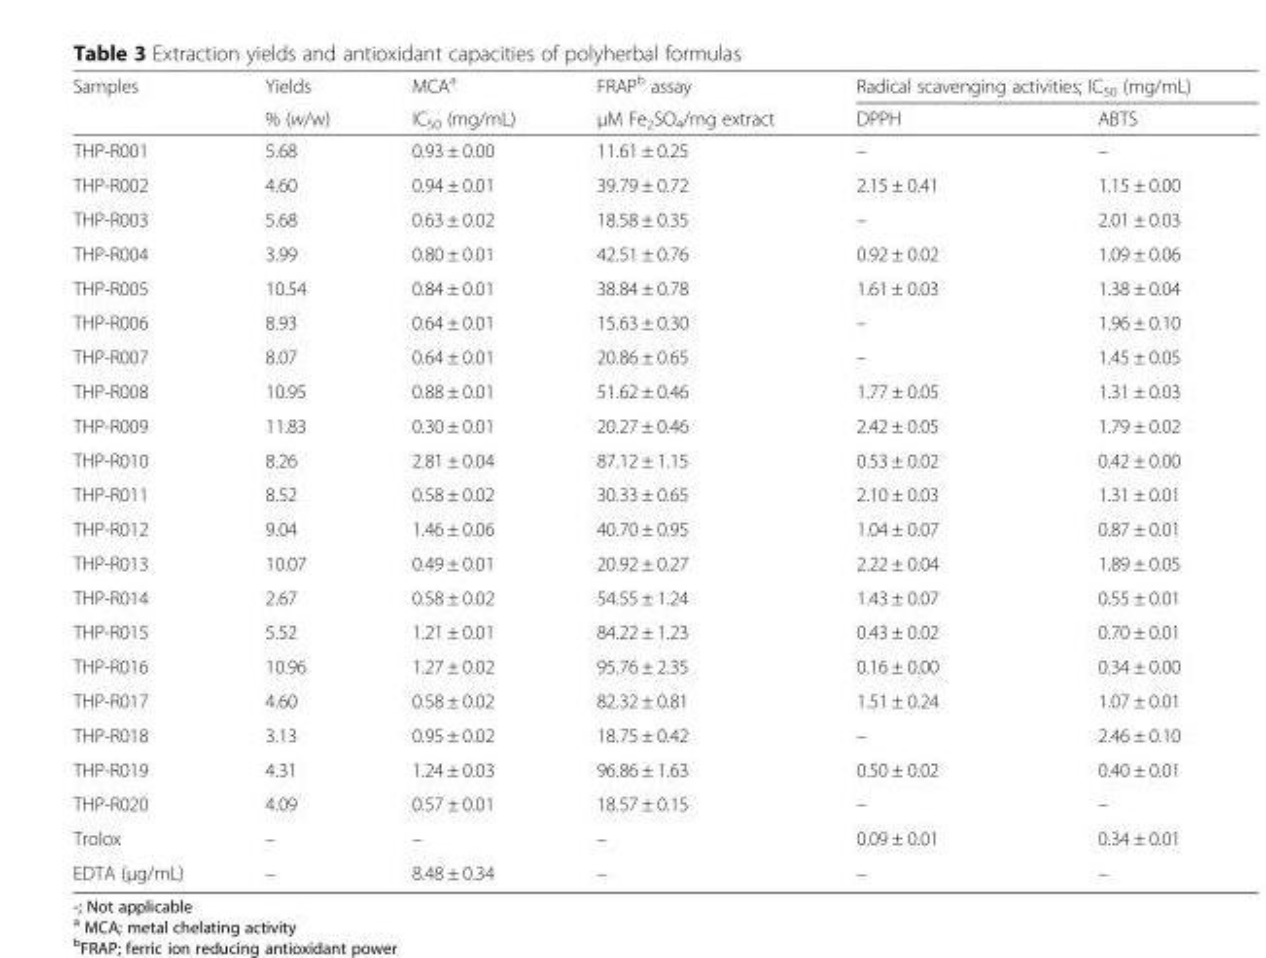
<table><thead><tr><td rowspan="2">Samples</td><td rowspan="2">Yields % (w/w)</td><td rowspan="2">MCA<sup>a</sup> IC<sub>50</sub> (mg/mL)</td><td rowspan="2">FRAP<sup>b</sup> assay μM Fe<sub>2</sub>SO<sub>4</sub>/mg extract</td><td colspan="2">Radical scavenging activities; IC<sub>50</sub> (mg/mL)</td></tr><tr><td>DPPH</td><td>ABTS</td></tr></thead><tbody><tr><td>THP-R001</td><td>5.68</td><td>0.93 ± 0.00</td><td>11.61 ± 0.25</td><td>–</td><td>–</td></tr><tr><td>THP-R002</td><td>4.60</td><td>0.94 ± 0.01</td><td>39.79 ± 0.72</td><td>2.15 ± 0.41</td><td>1.15 ± 0.00</td></tr><tr><td>THP-R003</td><td>5.68</td><td>0.63 ± 0.02</td><td>18.58 ± 0.35</td><td>–</td><td>2.01 ± 0.03</td></tr><tr><td>THP-R004</td><td>3.99</td><td>0.80 ± 0.01</td><td>42.51 ± 0.76</td><td>0.92 ± 0.02</td><td>1.09 ± 0.06</td></tr><tr><td>THP-R005</td><td>10.54</td><td>0.84 ± 0.01</td><td>38.84 ± 0.78</td><td>1.61 ± 0.03</td><td>1.38 ± 0.04</td></tr><tr><td>THP-R006</td><td>8.93</td><td>0.64 ± 0.01</td><td>15.63 ± 0.30</td><td>–</td><td>1.96 ± 0.10</td></tr><tr><td>THP-R007</td><td>8.07</td><td>0.64 ± 0.01</td><td>20.86 ± 0.65</td><td>–</td><td>1.45 ± 0.05</td></tr><tr><td>THP-R008</td><td>10.95</td><td>0.88 ± 0.01</td><td>51.62 ± 0.46</td><td>1.77 ± 0.05</td><td>1.31 ± 0.03</td></tr><tr><td>THP-R009</td><td>11.83</td><td>0.30 ± 0.01</td><td>20.27 ± 0.46</td><td>2.42 ± 0.05</td><td>1.79 ± 0.02</td></tr><tr><td>THP-R010</td><td>8.26</td><td>2.81 ± 0.04</td><td>87.12 ± 1.15</td><td>0.53 ± 0.02</td><td>0.42 ± 0.00</td></tr><tr><td>THP-R011</td><td>8.52</td><td>0.58 ± 0.02</td><td>30.33 ± 0.65</td><td>2.10 ± 0.03</td><td>1.31 ± 0.01</td></tr><tr><td>THP-R012</td><td>9.04</td><td>1.46 ± 0.06</td><td>40.70 ± 0.95</td><td>1.04 ± 0.07</td><td>0.87 ± 0.01</td></tr><tr><td>THP-R013</td><td>10.07</td><td>0.49 ± 0.01</td><td>20.92 ± 0.27</td><td>2.22 ± 0.04</td><td>1.89 ± 0.05</td></tr><tr><td>THP-R014</td><td>2.67</td><td>0.58 ± 0.02</td><td>54.55 ± 1.24</td><td>1.43 ± 0.07</td><td>0.55 ± 0.01</td></tr><tr><td>THP-R015</td><td>5.52</td><td>1.21 ± 0.01</td><td>84.22 ± 1.23</td><td>0.43 ± 0.02</td><td>0.70 ± 0.01</td></tr><tr><td>THP-R016</td><td>10.96</td><td>1.27 ± 0.02</td><td>95.76 ± 2.35</td><td>0.16 ± 0.00</td><td>0.34 ± 0.00</td></tr><tr><td>THP-R017</td><td>4.60</td><td>0.58 ± 0.02</td><td>82.32 ± 0.81</td><td>1.51 ± 0.24</td><td>1.07 ± 0.01</td></tr><tr><td>THP-R018</td><td>3.13</td><td>0.95 ± 0.02</td><td>18.75 ± 0.42</td><td>–</td><td>2.46 ± 0.10</td></tr><tr><td>THP-R019</td><td>4.31</td><td>1.24 ± 0.03</td><td>96.86 ± 1.63</td><td>0.50 ± 0.02</td><td>0.40 ± 0.01</td></tr><tr><td>THP-R020</td><td>4.09</td><td>0.57 ± 0.01</td><td>18.57 ± 0.15</td><td>–</td><td>–</td></tr><tr><td>Trolox</td><td>–</td><td>–</td><td>–</td><td>0.09 ± 0.01</td><td>0.34 ± 0.01</td></tr><tr><td>EDTA (μg/mL)</td><td>–</td><td>8.48 ± 0.34</td><td>–</td><td>–</td><td>–</td></tr></tbody></table>